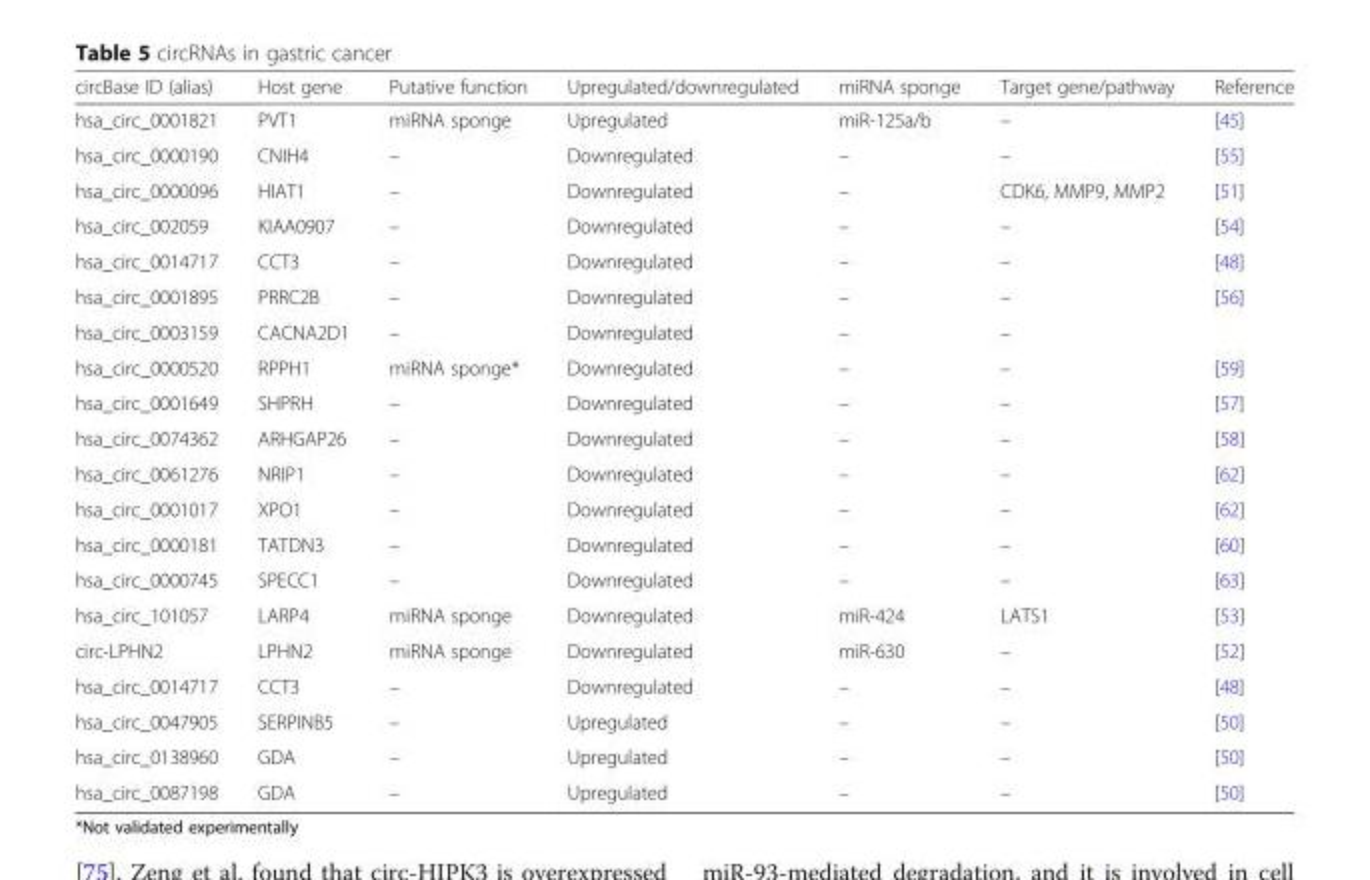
<table><thead><tr><td>circBase ID (alias)</td><td>Host gene</td><td>Putative function</td><td>Upregulated/downregulated</td><td>miRNA sponge</td><td>Target gene/pathway</td><td>Reference</td></tr></thead><tbody><tr><td>hsa_circ_0001821</td><td>PVT1</td><td>miRNA sponge</td><td>Upregulated</td><td>miR-125a/b</td><td>–</td><td>[45]</td></tr><tr><td>hsa_circ_0000190</td><td>CNIH4</td><td>–</td><td>Downregulated</td><td>–</td><td>–</td><td>[55]</td></tr><tr><td>hsa_circ_0000096</td><td>HIAT1</td><td>–</td><td>Downregulated</td><td>–</td><td>CDK6, MMP9, MMP2</td><td>[51]</td></tr><tr><td>hsa_circ_002059</td><td>KIAA0907</td><td>–</td><td>Downregulated</td><td>–</td><td>–</td><td>[54]</td></tr><tr><td>hsa_circ_0014717</td><td>CCT3</td><td>–</td><td>Downregulated</td><td>–</td><td>–</td><td>[48]</td></tr><tr><td>hsa_circ_0001895</td><td>PRRC2B</td><td>–</td><td>Downregulated</td><td>–</td><td>–</td><td>[56]</td></tr><tr><td>hsa_circ_0003159</td><td>CACNA2D1</td><td>–</td><td>Downregulated</td><td>–</td><td>–</td><td></td></tr><tr><td>hsa_circ_0000520</td><td>RPPH1</td><td>miRNA sponge*</td><td>Downregulated</td><td>–</td><td>–</td><td>[59]</td></tr><tr><td>hsa_circ_0001649</td><td>SHPRH</td><td>–</td><td>Downregulated</td><td>–</td><td>–</td><td>[57]</td></tr><tr><td>hsa_circ_0074362</td><td>ARHGAP26</td><td>–</td><td>Downregulated</td><td>–</td><td>–</td><td>[58]</td></tr><tr><td>hsa_circ_0061276</td><td>NRIP1</td><td>–</td><td>Downregulated</td><td>–</td><td>–</td><td>[62]</td></tr><tr><td>hsa_circ_0001017</td><td>XPO1</td><td>–</td><td>Downregulated</td><td>–</td><td>–</td><td>[62]</td></tr><tr><td>hsa_circ_0000181</td><td>TATDN3</td><td>–</td><td>Downregulated</td><td>–</td><td>–</td><td>[60]</td></tr><tr><td>hsa_circ_0000745</td><td>SPECC1</td><td>–</td><td>Downregulated</td><td>–</td><td>–</td><td>[63]</td></tr><tr><td>hsa_circ_101057</td><td>LARP4</td><td>miRNA sponge</td><td>Downregulated</td><td>miR-424</td><td>LATS1</td><td>[53]</td></tr><tr><td>circ-LPHN2</td><td>LPHN2</td><td>miRNA sponge</td><td>Downregulated</td><td>miR-630</td><td>–</td><td>[52]</td></tr><tr><td>hsa_circ_0014717</td><td>CCT3</td><td>–</td><td>Downregulated</td><td>–</td><td>–</td><td>[48]</td></tr><tr><td>hsa_circ_0047905</td><td>SERPINB5</td><td>–</td><td>Upregulated</td><td>–</td><td>–</td><td>[50]</td></tr><tr><td>hsa_circ_0138960</td><td>GDA</td><td>–</td><td>Upregulated</td><td>–</td><td>–</td><td>[50]</td></tr><tr><td>hsa_circ_0087198</td><td>GDA</td><td>–</td><td>Upregulated</td><td>–</td><td>–</td><td>[50]</td></tr></tbody></table>